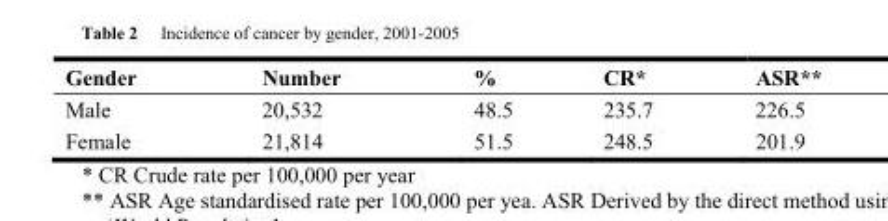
<table><thead><tr><td>Gender</td><td>Number</td><td>%</td><td>CR*</td><td>ASR**</td></tr></thead><tbody><tr><td>Male</td><td>20,532</td><td>48.5</td><td>235.7</td><td>226.5</td></tr><tr><td>Female</td><td>21,814</td><td>51.5</td><td>248.5</td><td>201.9</td></tr></tbody></table>